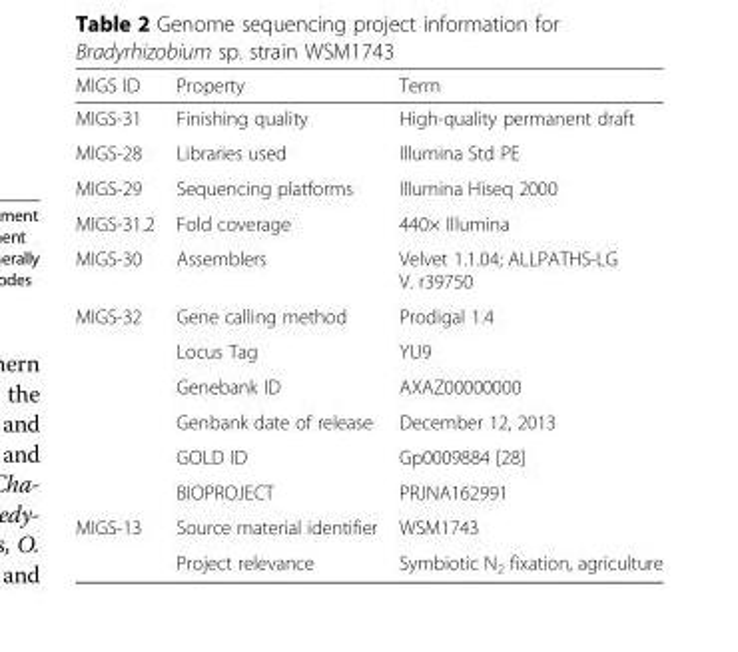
<table><thead><tr><td>MIGS ID</td><td>Property</td><td>Term</td></tr></thead><tbody><tr><td>MIGS-31</td><td>Finishing quality</td><td>High-quality permanent draft</td></tr><tr><td>MIGS-28</td><td>Libraries used</td><td>Illumina Std PE</td></tr><tr><td>MIGS-29</td><td>Sequencing platforms</td><td>Illumina Hiseq 2000</td></tr><tr><td>MIGS-31.2</td><td>Fold coverage</td><td>440× Illumina</td></tr><tr><td>MIGS-30</td><td>Assemblers</td><td>Velvet 1.1.04; ALLPATHS-LG V. r39750</td></tr><tr><td rowspan="6">MIGS-32</td><td>Gene calling method</td><td>Prodigal 1.4</td></tr><tr><td>Locus Tag</td><td>YU9</td></tr><tr><td>Genebank ID</td><td>AXAZ00000000</td></tr><tr><td>Genbank date of release</td><td>December 12, 2013</td></tr><tr><td>GOLD ID</td><td>Gp0009884 [28]</td></tr><tr><td>BIOPROJECT</td><td>PRJNA162991</td></tr><tr><td rowspan="2">MIGS-13</td><td>Source material identifier</td><td>WSM1743</td></tr><tr><td>Project relevance</td><td>Symbiotic N<sub>2</sub> fixation, agriculture</td></tr></tbody></table>